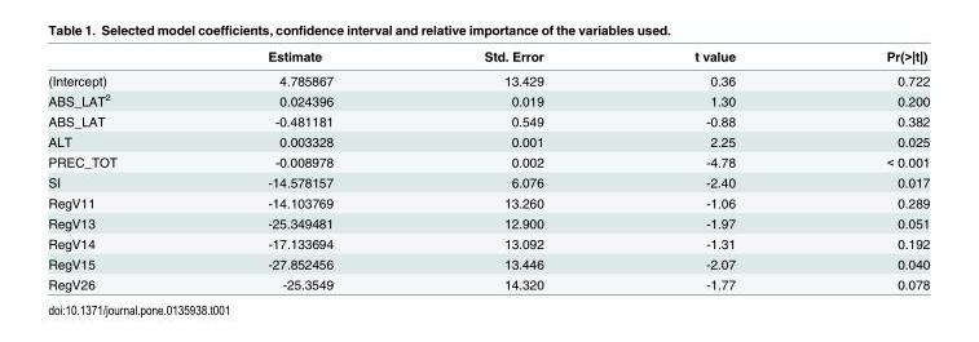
<table><thead><tr><td></td><td>Estimate</td><td>Std. Error</td><td>t value</td><td>Pr(&gt;|t|)</td></tr></thead><tbody><tr><td>(Intercept)</td><td>4.785867</td><td>13.429</td><td>0.36</td><td>0.722</td></tr><tr><td>ABS_LAT<sup>2</sup></td><td>0.024396</td><td>0.019</td><td>1.30</td><td>0.200</td></tr><tr><td>ABS_LAT</td><td>-0.481181</td><td>0.549</td><td>-0.88</td><td>0.382</td></tr><tr><td>ALT</td><td>0.003328</td><td>0.001</td><td>2.25</td><td>0.025</td></tr><tr><td>PREC_TOT</td><td>-0.008978</td><td>0.002</td><td>-4.78</td><td>&lt; 0.001</td></tr><tr><td>SI</td><td>-14.578157</td><td>6.076</td><td>-2.40</td><td>0.017</td></tr><tr><td>RegV11</td><td>-14.103769</td><td>13.260</td><td>-1.06</td><td>0.289</td></tr><tr><td>RegV13</td><td>-25.349481</td><td>12.900</td><td>-1.97</td><td>0.051</td></tr><tr><td>RegV14</td><td>-17.133694</td><td>13.092</td><td>-1.31</td><td>0.192</td></tr><tr><td>RegV15</td><td>-27.852456</td><td>13.446</td><td>-2.07</td><td>0.040</td></tr><tr><td>RegV26</td><td>-25.3549</td><td>14.320</td><td>-1.77</td><td>0.078</td></tr></tbody></table>